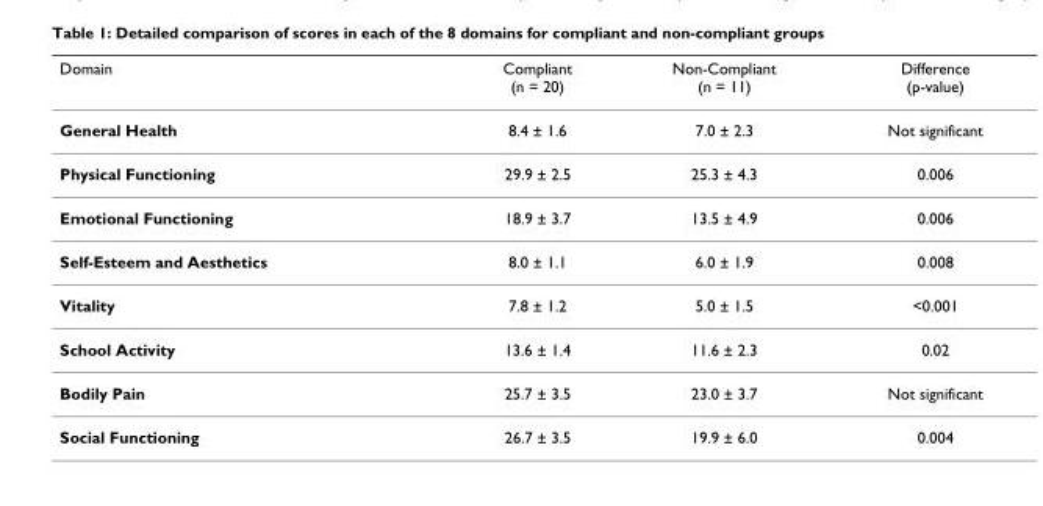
<table><thead><tr><td>Domain</td><td>Compliant (n = 20)</td><td>Non-Compliant (n = 11)</td><td>Difference (p-value)</td></tr></thead><tbody><tr><td>General Health</td><td>8.4 ± 1.6</td><td>7.0 ± 2.3</td><td>Not significant</td></tr><tr><td>Physical Functioning</td><td>29.9 ± 2.5</td><td>25.3 ± 4.3</td><td>0.006</td></tr><tr><td>Emotional Functioning</td><td>18.9 ± 3.7</td><td>13.5 ± 4.9</td><td>0.006</td></tr><tr><td>Self-Esteem and Aesthetics</td><td>8.0 ± 1.1</td><td>6.0 ± 1.9</td><td>0.008</td></tr><tr><td>Vitality</td><td>7.8 ± 1.2</td><td>5.0 ± 1.5</td><td>&lt;0.001</td></tr><tr><td>School Activity</td><td>13.6 ± 1.4</td><td>11.6 ± 2.3</td><td>0.02</td></tr><tr><td>Bodily Pain</td><td>25.7 ± 3.5</td><td>23.0 ± 3.7</td><td>Not significant</td></tr><tr><td>Social Functioning</td><td>26.7 ± 3.5</td><td>19.9 ± 6.0</td><td>0.004</td></tr></tbody></table>